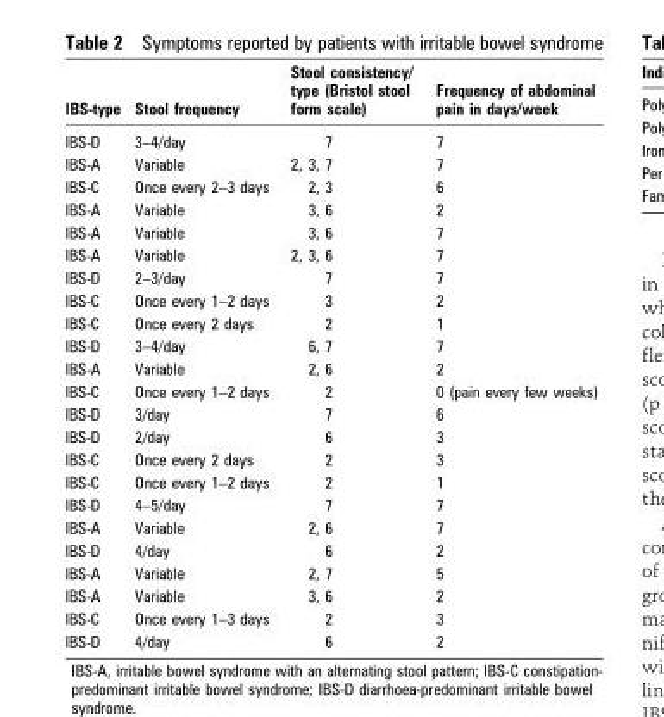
<table><thead><tr><td>IBS-type</td><td>Stool frequency</td><td>Stool consistency/ type (Bristol stool form scale)</td><td>Frequency of abdominal pain in days/week</td></tr></thead><tbody><tr><td>IBS-D</td><td>3–4/day</td><td>7</td><td>7</td></tr><tr><td>IBS-A</td><td>Variable</td><td>2, 3, 7</td><td>7</td></tr><tr><td>IBS-C</td><td>Once every 2–3 days</td><td>2, 3</td><td>6</td></tr><tr><td>IBS-A</td><td>Variable</td><td>3, 6</td><td>2</td></tr><tr><td>IBS-A</td><td>Variable</td><td>3, 6</td><td>7</td></tr><tr><td>IBS-A</td><td>Variable</td><td>2, 3, 6</td><td>7</td></tr><tr><td>IBS-D</td><td>2–3/day</td><td>7</td><td>7</td></tr><tr><td>IBS-C</td><td>Once every 1–2 days</td><td>3</td><td>2</td></tr><tr><td>IBS-C</td><td>Once every 2 days</td><td>2</td><td>1</td></tr><tr><td>IBS-D</td><td>3–4/day</td><td>6, 7</td><td>7</td></tr><tr><td>IBS-A</td><td>Variable</td><td>2, 6</td><td>2</td></tr><tr><td>IBS-C</td><td>Once every 1–2 days</td><td>2</td><td>0 (pain every few weeks)</td></tr><tr><td>IBS-D</td><td>3/day</td><td>7</td><td>6</td></tr><tr><td>IBS-D</td><td>2/day</td><td>6</td><td>3</td></tr><tr><td>IBS-C</td><td>Once every 2 days</td><td>2</td><td>3</td></tr><tr><td>IBS-C</td><td>Once every 1–2 days</td><td>2</td><td>1</td></tr><tr><td>IBS-D</td><td>4–5/day</td><td>7</td><td>7</td></tr><tr><td>IBS-A</td><td>Variable</td><td>2, 6</td><td>7</td></tr><tr><td>IBS-D</td><td>4/day</td><td>6</td><td>2</td></tr><tr><td>IBS-A</td><td>Variable</td><td>2, 7</td><td>5</td></tr><tr><td>IBS-A</td><td>Variable</td><td>3, 6</td><td>2</td></tr><tr><td>IBS-C</td><td>Once every 1–3 days</td><td>2</td><td>3</td></tr><tr><td>IBS-D</td><td>4/day</td><td>6</td><td>2</td></tr></tbody></table>